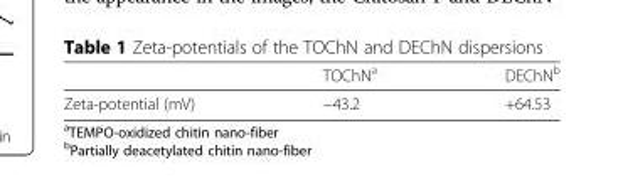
<table><thead><tr><td></td><td>TOChN<sup>a</sup></td><td>DEChN<sup>b</sup></td></tr></thead><tbody><tr><td>Zeta-potential (mV)</td><td>−43.2</td><td>+64.53</td></tr></tbody></table>